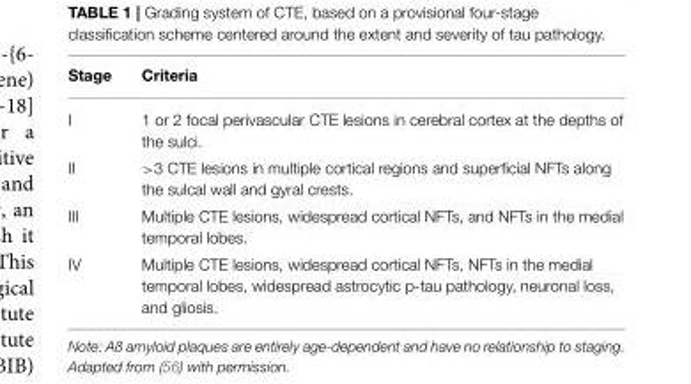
<table><thead><tr><td>Stage</td><td>Criteria</td></tr></thead><tbody><tr><td>I</td><td>1 or 2 focal perivascular CTE lesions in cerebral cortex at the depths of the sulci.</td></tr><tr><td>II</td><td>&gt;3 CTE lesions in multiple cortical regions and superficial NFTs along the sulcal wall and gyral crests.</td></tr><tr><td>III</td><td>Multiple CTE lesions, widespread cortical NFTs, and NFTs in the medial temporal lobes.</td></tr><tr><td>IV</td><td>Multiple CTE lesions, widespread cortical NFTs, NFTs in the medial temporal lobes, widespread astrocytic p-tau pathology, neuronal loss, and gliosis.</td></tr></tbody></table>